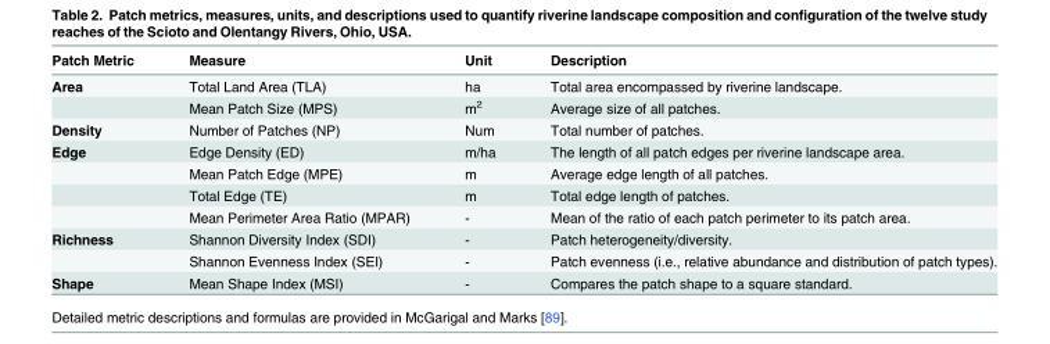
<table><thead><tr><td>Patch Metric</td><td>Measure</td><td>Unit</td><td>Description</td></tr></thead><tbody><tr><td rowspan="2">Area</td><td>Total Land Area (TLA)</td><td>ha</td><td>Total area encompassed by riverine landscape.</td></tr><tr><td>Mean Patch Size (MPS)</td><td>m<sup>2</sup></td><td>Average size of all patches.</td></tr><tr><td>Density</td><td>Number of Patches (NP)</td><td>Num</td><td>Total number of patches.</td></tr><tr><td rowspan="4">Edge</td><td>Edge Density (ED)</td><td>m/ha</td><td>The length of all patch edges per riverine landscape area.</td></tr><tr><td>Mean Patch Edge (MPE)</td><td>m</td><td>Average edge length of all patches.</td></tr><tr><td>Total Edge (TE)</td><td>m</td><td>Total edge length of patches.</td></tr><tr><td>Mean Perimeter Area Ratio (MPAR)</td><td>-</td><td>Mean of the ratio of each patch perimeter to its patch area.</td></tr><tr><td rowspan="2">Richness</td><td>Shannon Diversity Index (SDI)</td><td>-</td><td>Patch heterogeneity/diversity.</td></tr><tr><td>Shannon Evenness Index (SEI)</td><td>-</td><td>Patch evenness (i.e., relative abundance and distribution of patch types).</td></tr><tr><td>Shape</td><td>Mean Shape Index (MSI)</td><td>-</td><td>Compares the patch shape to a square standard.</td></tr></tbody></table>